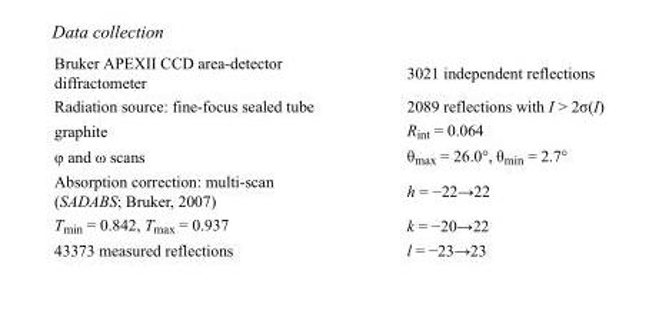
<table><tbody><tr><td>Bruker APEXII CCD area-detector diffractometer</td><td>3021 independent reflections</td></tr><tr><td>Radiation source: fine-focus sealed tube</td><td>2089 reflections with I &gt; 2σ(I)</td></tr><tr><td>graphite</td><td>R<sub>int</sub> = 0.064</td></tr><tr><td>φ and ω scans</td><td>θ<sub>max</sub> = 26.0°, θ<sub>min</sub> = 2.7°</td></tr><tr><td>Absorption correction: multi-scan (SADABS; Bruker, 2007)</td><td>h = −22→22</td></tr><tr><td>T<sub>min</sub> = 0.842, T<sub>max</sub> = 0.937</td><td>k = −20→22</td></tr><tr><td>43373 measured reflections</td><td>l = −23→23</td></tr></tbody></table>